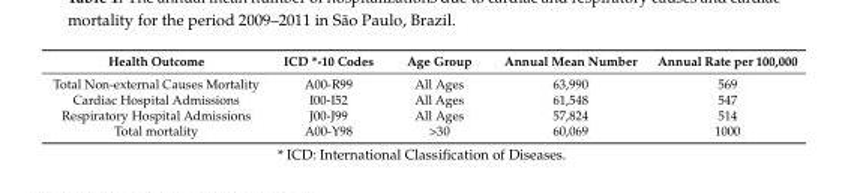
<table><thead><tr><td>Health Outcome</td><td>ICD *-10 Codes</td><td>Age Group</td><td>Annual Mean Number</td><td>Annual Rate per 100,000</td></tr></thead><tbody><tr><td>Total Non-external Causes Mortality</td><td>A00-R99</td><td>All Ages</td><td>63,990</td><td>569</td></tr><tr><td>Cardiac Hospital Admissions</td><td>I00-I52</td><td>All Ages</td><td>61,548</td><td>547</td></tr><tr><td>Respiratory Hospital Admissions</td><td>J00-J99</td><td>All Ages</td><td>57,824</td><td>514</td></tr><tr><td>Total mortality</td><td>A00-Y98</td><td>&gt;30</td><td>60,069</td><td>1000</td></tr></tbody></table>